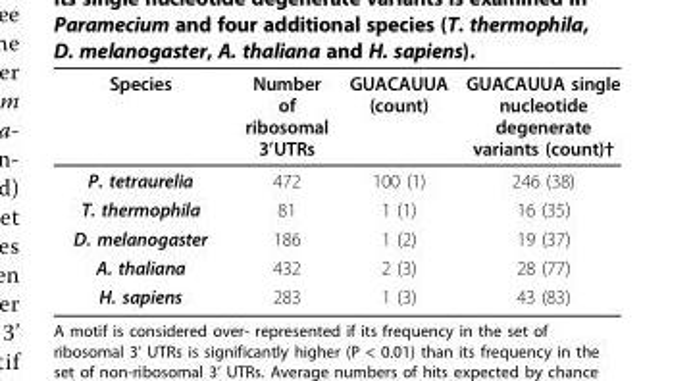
<table><thead><tr><td>Species</td><td>Number of ribosomal 3’UTRs</td><td>GUACAUUA (count)</td><td>GUACAUUA single nucleotide degenerate variants (count)†</td></tr></thead><tbody><tr><td>P. tetraurelia</td><td>472</td><td>100 (1)</td><td>246 (38)</td></tr><tr><td>T. thermophila</td><td>81</td><td>1 (1)</td><td>16 (35)</td></tr><tr><td>D. melanogaster</td><td>186</td><td>1 (2)</td><td>19 (37)</td></tr><tr><td>A. thaliana</td><td>432</td><td>2 (3)</td><td>28 (77)</td></tr><tr><td>H. sapiens</td><td>283</td><td>1 (3)</td><td>43 (83)</td></tr></tbody></table>